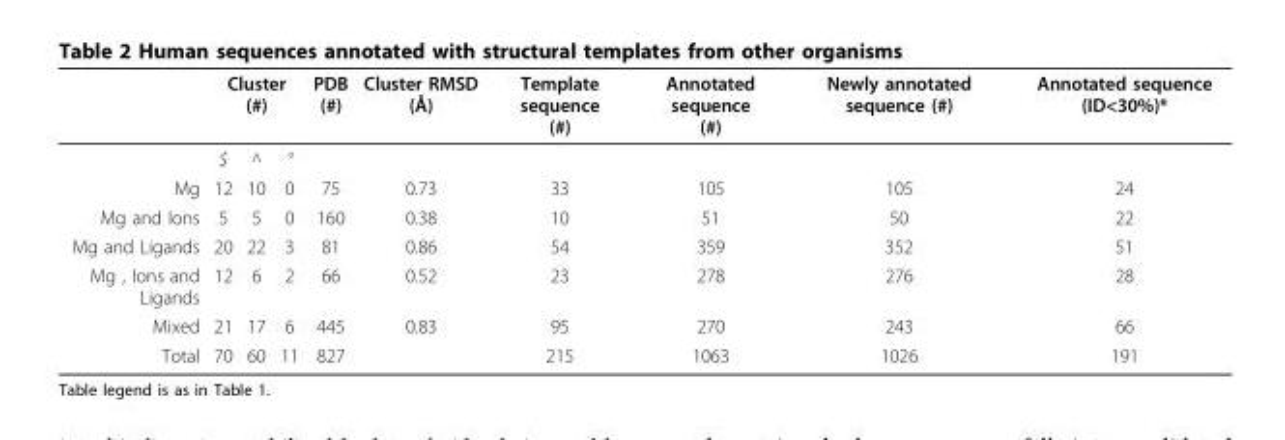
<table><thead><tr><td rowspan="2"></td><td colspan="3">Cluster (#)</td><td rowspan="2">PDB (#)</td><td rowspan="2">Cluster RMSD (Å)</td><td rowspan="2">Template sequence (#)</td><td rowspan="2">Annotated sequence (#)</td><td rowspan="2">Newly annotated sequence (#)</td><td rowspan="2">Annotated sequence (ID&lt;30%)*</td></tr><tr><td>$</td><td>^</td><td>°</td></tr></thead><tbody><tr><td>Mg</td><td>12</td><td>10</td><td>0</td><td>75</td><td>0.73</td><td>33</td><td>105</td><td>105</td><td>24</td></tr><tr><td>Mg and Ions</td><td>5</td><td>5</td><td>0</td><td>160</td><td>0.38</td><td>10</td><td>51</td><td>50</td><td>22</td></tr><tr><td>Mg and Ligands</td><td>20</td><td>22</td><td>3</td><td>81</td><td>0.86</td><td>54</td><td>359</td><td>352</td><td>51</td></tr><tr><td>Mg , Ions and Ligands</td><td>12</td><td>6</td><td>2</td><td>66</td><td>0.52</td><td>23</td><td>278</td><td>276</td><td>28</td></tr><tr><td>Mixed</td><td>21</td><td>17</td><td>6</td><td>445</td><td>0.83</td><td>95</td><td>270</td><td>243</td><td>66</td></tr><tr><td>Total</td><td>70</td><td>60</td><td>11</td><td>827</td><td></td><td>215</td><td>1063</td><td>1026</td><td>191</td></tr></tbody></table>